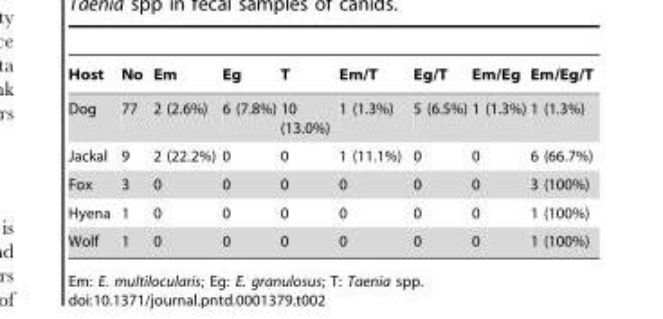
<table><thead><tr><td>Host</td><td>No</td><td>Em</td><td>Eg</td><td>T</td><td>Em/T</td><td>Eg/T</td><td>Em/Eg</td><td>Em/Eg/T</td></tr></thead><tbody><tr><td>Dog</td><td>77</td><td>2 (2.6%)</td><td>6 (7.8%)</td><td>10 (13.0%)</td><td>1 (1.3%)</td><td>5 (6.5%)</td><td>1 (1.3%)</td><td>1 (1.3%)</td></tr><tr><td>Jackal</td><td>9</td><td>2 (22.2%)</td><td>0</td><td>0</td><td>1 (11.1%)</td><td>0</td><td>0</td><td>6 (66.7%)</td></tr><tr><td>Fox</td><td>3</td><td>0</td><td>0</td><td>0</td><td>0</td><td>0</td><td>0</td><td>3 (100%)</td></tr><tr><td>Hyena</td><td>1</td><td>0</td><td>0</td><td>0</td><td>0</td><td>0</td><td>0</td><td>1 (100%)</td></tr><tr><td>Wolf</td><td>1</td><td>0</td><td>0</td><td>0</td><td>0</td><td>0</td><td>0</td><td>1 (100%)</td></tr></tbody></table>